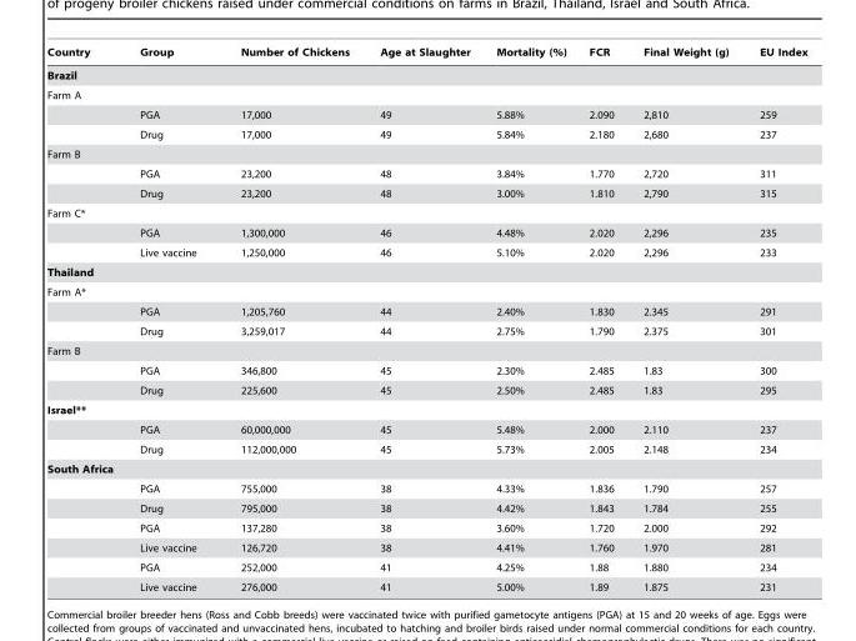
<table><thead><tr><td>Country</td><td>Group</td><td>Number of Chickens</td><td>Age at Slaughter</td><td>Mortality (%)</td><td>FCR</td><td>Final Weight (g)</td><td>EU Index</td></tr></thead><tbody><tr><td colspan="8">Brazil</td></tr><tr><td colspan="8">Farm A</td></tr><tr><td></td><td>PGA</td><td>17,000</td><td>49</td><td>5.88%</td><td>2.090</td><td>2,810</td><td>259</td></tr><tr><td></td><td>Drug</td><td>17,000</td><td>49</td><td>5.84%</td><td>2.180</td><td>2,680</td><td>237</td></tr><tr><td colspan="8">Farm B</td></tr><tr><td></td><td>PGA</td><td>23,200</td><td>48</td><td>3.84%</td><td>1.770</td><td>2,720</td><td>311</td></tr><tr><td></td><td>Drug</td><td>23,200</td><td>48</td><td>3.00%</td><td>1.810</td><td>2,790</td><td>315</td></tr><tr><td colspan="8">Farm C*</td></tr><tr><td></td><td>PGA</td><td>1,300,000</td><td>46</td><td>4.48%</td><td>2.020</td><td>2,296</td><td>235</td></tr><tr><td></td><td>Live vaccine</td><td>1,250,000</td><td>46</td><td>5.10%</td><td>2.020</td><td>2,296</td><td>233</td></tr><tr><td colspan="8">Thailand</td></tr><tr><td colspan="8">Farm A*</td></tr><tr><td></td><td>PGA</td><td>1,205,760</td><td>44</td><td>2.40%</td><td>1.830</td><td>2.345</td><td>291</td></tr><tr><td></td><td>Drug</td><td>3,259,017</td><td>44</td><td>2.75%</td><td>1.790</td><td>2.375</td><td>301</td></tr><tr><td colspan="8">Farm B</td></tr><tr><td></td><td>PGA</td><td>346,800</td><td>45</td><td>2.30%</td><td>2.485</td><td>1.83</td><td>300</td></tr><tr><td></td><td>Drug</td><td>225,600</td><td>45</td><td>2.50%</td><td>2.485</td><td>1.83</td><td>295</td></tr><tr><td colspan="8">Israel**</td></tr><tr><td></td><td>PGA</td><td>60,000,000</td><td>45</td><td>5.48%</td><td>2.000</td><td>2.110</td><td>237</td></tr><tr><td></td><td>Drug</td><td>112,000,000</td><td>45</td><td>5.73%</td><td>2.005</td><td>2.148</td><td>234</td></tr><tr><td colspan="8">South Africa</td></tr><tr><td></td><td>PGA</td><td>755,000</td><td>38</td><td>4.33%</td><td>1.836</td><td>1.790</td><td>257</td></tr><tr><td></td><td>Drug</td><td>795,000</td><td>38</td><td>4.42%</td><td>1.843</td><td>1.784</td><td>255</td></tr><tr><td></td><td>PGA</td><td>137,280</td><td>38</td><td>3.60%</td><td>1.720</td><td>2.000</td><td>292</td></tr><tr><td></td><td>Live vaccine</td><td>126,720</td><td>38</td><td>4.41%</td><td>1.760</td><td>1.970</td><td>281</td></tr><tr><td></td><td>PGA</td><td>252,000</td><td>41</td><td>4.25%</td><td>1.88</td><td>1.880</td><td>234</td></tr><tr><td></td><td>Live vaccine</td><td>276,000</td><td>41</td><td>5.00%</td><td>1.89</td><td>1.875</td><td>231</td></tr></tbody></table>